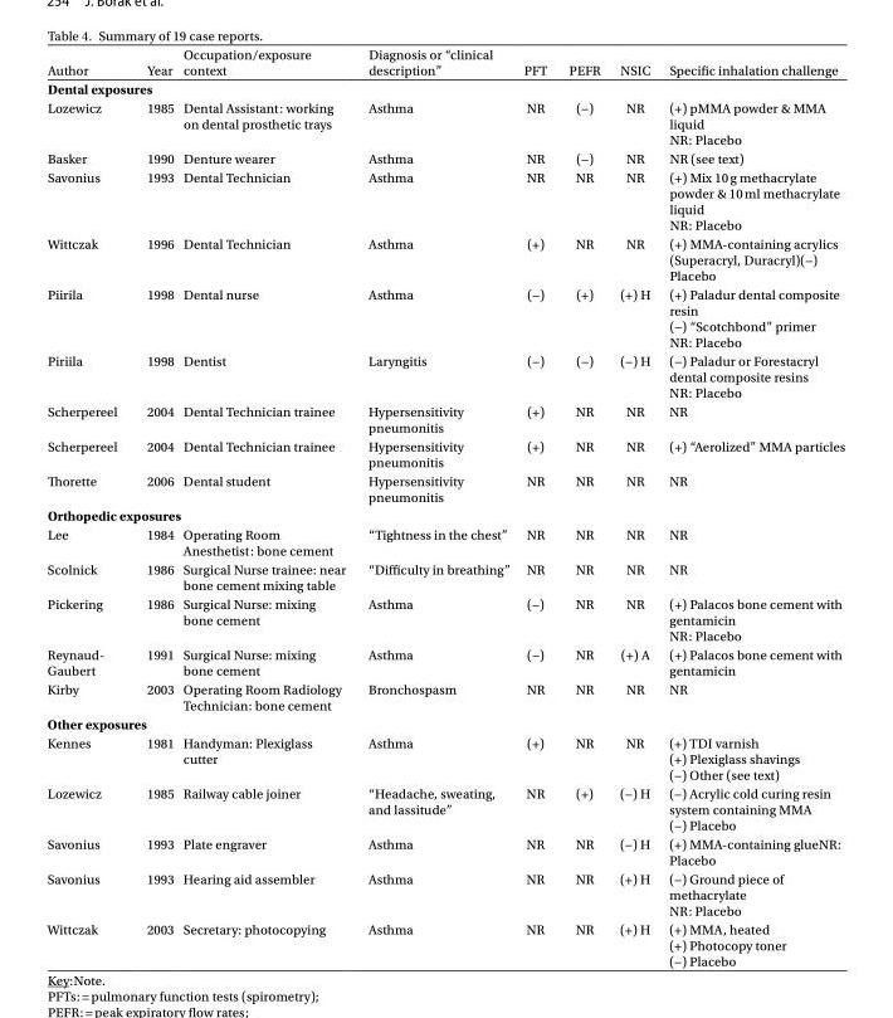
<table><thead><tr><td>Author</td><td>Year</td><td>Occupation/exposure context</td><td>Diagnosis or “clinical description”</td><td>PFT</td><td>PEFR</td><td>NSIC</td><td>Specific inhalation challenge</td></tr></thead><tbody><tr><td colspan="8">Dental exposures</td></tr><tr><td>Lozewicz</td><td>1985</td><td>Dental Assistant: working on dental prosthetic trays</td><td>Asthma</td><td>NR</td><td>(−)</td><td>NR</td><td>(+) pMMA powder &amp; MMA liquid NR: Placebo</td></tr><tr><td>Basker</td><td>1990</td><td>Denture wearer</td><td>Asthma</td><td>NR</td><td>(−)</td><td>NR</td><td>NR (see text)</td></tr><tr><td>Savonius</td><td>1993</td><td>Dental Technician</td><td>Asthma</td><td>NR</td><td>NR</td><td>NR</td><td>(+) Mix 10 g methacrylate powder &amp; 10 ml methacrylate liquid NR: Placebo</td></tr><tr><td>Wittczak</td><td>1996</td><td>Dental Technician</td><td>Asthma</td><td>(+)</td><td>NR</td><td>NR</td><td>(+) MMA-containing acrylics (Superacryl, Duracryl)(−) Placebo</td></tr><tr><td>Piirila</td><td>1998</td><td>Dental nurse</td><td>Asthma</td><td>(−)</td><td>(+)</td><td>(+) H</td><td>(+) Paladur dental composite resin (−) “Scotchbond” primer NR: Placebo</td></tr><tr><td>Piriila</td><td>1998</td><td>Dentist</td><td>Laryngitis</td><td>(−)</td><td>(−)</td><td>(−) H</td><td>(−) Paladur or Forestacryl dental composite resins NR: Placebo</td></tr><tr><td>Scherpereel</td><td>2004</td><td>Dental Technician trainee</td><td>Hypersensitivity pneumonitis</td><td>(+)</td><td>NR</td><td>NR</td><td>NR</td></tr><tr><td>Scherpereel</td><td>2004</td><td>Dental Technician trainee</td><td>Hypersensitivity pneumonitis</td><td>(+)</td><td>NR</td><td>NR</td><td>(+) “Aerolized” MMA particles</td></tr><tr><td>Thorette</td><td>2006</td><td>Dental student</td><td>Hypersensitivity pneumonitis</td><td>NR</td><td>NR</td><td>NR</td><td>NR</td></tr><tr><td colspan="8">Orthopedic exposures</td></tr><tr><td>Lee</td><td>1984</td><td>Operating Room Anesthetist: bone cement</td><td>“Tightness in the chest”</td><td>NR</td><td>NR</td><td>NR</td><td>NR</td></tr><tr><td>Scolnick</td><td>1986</td><td>Surgical Nurse trainee: near bone cement mixing table</td><td>“Difficulty in breathing”</td><td>NR</td><td>NR</td><td>NR</td><td>NR</td></tr><tr><td>Pickering</td><td>1986</td><td>Surgical Nurse: mixing bone cement</td><td>Asthma</td><td>(−)</td><td>NR</td><td>NR</td><td>(+) Palacos bone cement with gentamicin NR: Placebo</td></tr><tr><td>Reynaud- Gaubert</td><td>1991</td><td>Surgical Nurse: mixing bone cement</td><td>Asthma</td><td>(−)</td><td>NR</td><td>(+) A</td><td>(+) Palacos bone cement with gentamicin</td></tr><tr><td>Kirby</td><td>2003</td><td>Operating Room Radiology Technician: bone cement</td><td>Bronchospasm</td><td>NR</td><td>NR</td><td>NR</td><td>NR</td></tr><tr><td colspan="8">Other exposures</td></tr><tr><td>Kennes</td><td>1981</td><td>Handyman: Plexiglass cutter</td><td>Asthma</td><td>(+)</td><td>NR</td><td>NR</td><td>(+) TDI varnish (+) Plexiglass shavings (−) Other (see text)</td></tr><tr><td>Lozewicz</td><td>1985</td><td>Railway cable joiner</td><td>“Headache, sweating, and lassitude”</td><td>NR</td><td>(+)</td><td>(−) H</td><td>(−) Acrylic cold curing resin system containing MMA (−) Placebo</td></tr><tr><td>Savonius</td><td>1993</td><td>Plate engraver</td><td>Asthma</td><td>NR</td><td>NR</td><td>(−) H</td><td>(+) MMA-containing glueNR: Placebo</td></tr><tr><td>Savonius</td><td>1993</td><td>Hearing aid assembler</td><td>Asthma</td><td>NR</td><td>NR</td><td>(+) H</td><td>(−) Ground piece of methacrylate NR: Placebo</td></tr><tr><td>Wittczak</td><td>2003</td><td>Secretary: photocopying</td><td>Asthma</td><td>NR</td><td>NR</td><td>(+) H</td><td>(+) MMA, heated (+) Photocopy toner (−) Placebo</td></tr></tbody></table>